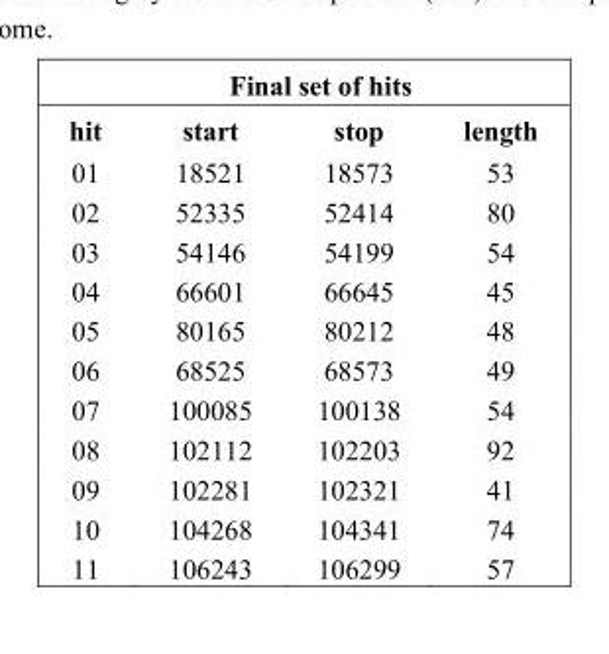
<table><thead><tr><td colspan="4">Final set of hits</td></tr><tr><td>hit</td><td>start</td><td>stop</td><td>length</td></tr></thead><tbody><tr><td>01</td><td>18521</td><td>18573</td><td>53</td></tr><tr><td>02</td><td>52335</td><td>52414</td><td>80</td></tr><tr><td>03</td><td>54146</td><td>54199</td><td>54</td></tr><tr><td>04</td><td>66601</td><td>66645</td><td>45</td></tr><tr><td>05</td><td>80165</td><td>80212</td><td>48</td></tr><tr><td>06</td><td>68525</td><td>68573</td><td>49</td></tr><tr><td>07</td><td>100085</td><td>100138</td><td>54</td></tr><tr><td>08</td><td>102112</td><td>102203</td><td>92</td></tr><tr><td>09</td><td>102281</td><td>102321</td><td>41</td></tr><tr><td>10</td><td>104268</td><td>104341</td><td>74</td></tr><tr><td>11</td><td>106243</td><td>106299</td><td>57</td></tr></tbody></table>